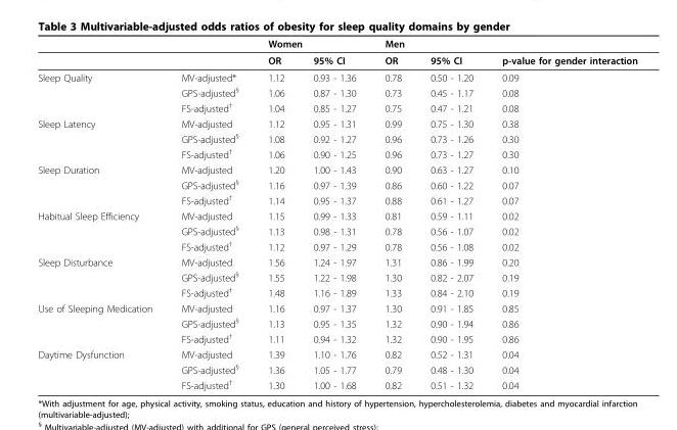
<table><thead><tr><td rowspan="2"></td><td rowspan="2"></td><td colspan="2">Women</td><td colspan="2">Men</td><td rowspan="2">p-value for gender interaction</td></tr><tr><td>OR</td><td>95% CI</td><td>OR</td><td>95% CI</td></tr></thead><tbody><tr><td rowspan="3">Sleep Quality</td><td>MV-adjusted*</td><td>1.12</td><td>0.93 - 1.36</td><td>0.78</td><td>0.50 - 1.20</td><td>0.09</td></tr><tr><td>GPS-adjusted<sup>§</sup></td><td>1.06</td><td>0.87 - 1.30</td><td>0.73</td><td>0.45 - 1.17</td><td>0.08</td></tr><tr><td>FS-adjusted<sup>†</sup></td><td>1.04</td><td>0.85 - 1.27</td><td>0.75</td><td>0.47 - 1.21</td><td>0.08</td></tr><tr><td rowspan="3">Sleep Latency</td><td>MV-adjusted</td><td>1.12</td><td>0.95 - 1.31</td><td>0.99</td><td>0.75 - 1.30</td><td>0.38</td></tr><tr><td>GPS-adjusted<sup>§</sup></td><td>1.08</td><td>0.92 - 1.27</td><td>0.96</td><td>0.73 - 1.26</td><td>0.30</td></tr><tr><td>FS-adjusted<sup>†</sup></td><td>1.06</td><td>0.90 - 1.25</td><td>0.96</td><td>0.73 - 1.27</td><td>0.30</td></tr><tr><td rowspan="3">Sleep Duration</td><td>MV-adjusted</td><td>1.20</td><td>1.00 - 1.43</td><td>0.90</td><td>0.63 - 1.27</td><td>0.10</td></tr><tr><td>GPS-adjusted<sup>§</sup></td><td>1.16</td><td>0.97 - 1.39</td><td>0.86</td><td>0.60 - 1.22</td><td>0.07</td></tr><tr><td>FS-adjusted<sup>†</sup></td><td>1.14</td><td>0.95 - 1.37</td><td>0.88</td><td>0.61 - 1.27</td><td>0.07</td></tr><tr><td rowspan="3">Habitual Sleep Efficiency</td><td>MV-adjusted</td><td>1.15</td><td>0.99 - 1.33</td><td>0.81</td><td>0.59 - 1.11</td><td>0.02</td></tr><tr><td>GPS-adjusted<sup>§</sup></td><td>1.13</td><td>0.98 - 1.31</td><td>0.78</td><td>0.56 - 1.07</td><td>0.02</td></tr><tr><td>FS-adjusted<sup>†</sup></td><td>1.12</td><td>0.97 - 1.29</td><td>0.78</td><td>0.56 - 1.08</td><td>0.02</td></tr><tr><td rowspan="3">Sleep Disturbance</td><td>MV-adjusted</td><td>1.56</td><td>1.24 - 1.97</td><td>1.31</td><td>0.86 - 1.99</td><td>0.20</td></tr><tr><td>GPS-adjusted<sup>§</sup></td><td>1.55</td><td>1.22 - 1.98</td><td>1.30</td><td>0.82 - 2.07</td><td>0.19</td></tr><tr><td>FS-adjusted<sup>†</sup></td><td>1.48</td><td>1.16 - 1.89</td><td>1.33</td><td>0.84 - 2.10</td><td>0.19</td></tr><tr><td rowspan="3">Use of Sleeping Medication</td><td>MV-adjusted</td><td>1.16</td><td>0.97 - 1.37</td><td>1.30</td><td>0.91 - 1.85</td><td>0.85</td></tr><tr><td>GPS-adjusted<sup>§</sup></td><td>1.13</td><td>0.95 - 1.35</td><td>1.32</td><td>0.90 - 1.94</td><td>0.86</td></tr><tr><td>FS-adjusted<sup>†</sup></td><td>1.11</td><td>0.94 - 1.32</td><td>1.32</td><td>0.90 - 1.95</td><td>0.86</td></tr><tr><td rowspan="3">Daytime Dysfunction</td><td>MV-adjusted</td><td>1.39</td><td>1.10 - 1.76</td><td>0.82</td><td>0.52 - 1.31</td><td>0.04</td></tr><tr><td>GPS-adjusted<sup>§</sup></td><td>1.36</td><td>1.05 - 1.77</td><td>0.79</td><td>0.48 - 1.30</td><td>0.04</td></tr><tr><td>FS-adjusted<sup>†</sup></td><td>1.30</td><td>1.00 - 1.68</td><td>0.82</td><td>0.51 - 1.32</td><td>0.04</td></tr></tbody></table>